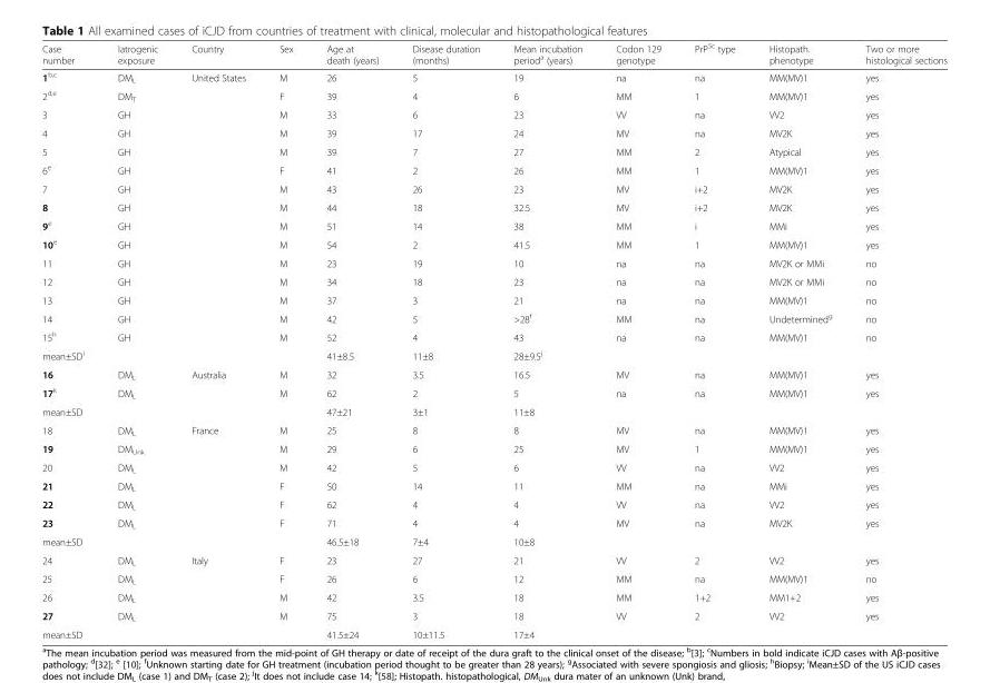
<table><thead><tr><td>Case number</td><td>Iatrogenic exposure</td><td>Country</td><td>Sex</td><td>Age at death (years)</td><td>Disease duration (months)</td><td>Mean incubation period<sup>a</sup> (years)</td><td>Codon 129 genotype</td><td>PrP<sup>Sc</sup> type</td><td>Histopath. phenotype</td><td>Two or more histological sections</td></tr></thead><tbody><tr><td>1<sup>b,c</sup></td><td>DM<sub>L</sub></td><td>United States</td><td>M</td><td>26</td><td>5</td><td>19</td><td>na</td><td>na</td><td>MM(MV)1</td><td>yes</td></tr><tr><td>2<sup>d,e</sup></td><td>DM<sub>T</sub></td><td></td><td>F</td><td>39</td><td>4</td><td>6</td><td>MM</td><td>1</td><td>MM(MV)1</td><td>yes</td></tr><tr><td>3</td><td>GH</td><td></td><td>M</td><td>33</td><td>6</td><td>23</td><td>VV</td><td>na</td><td>VV2</td><td>yes</td></tr><tr><td>4</td><td>GH</td><td></td><td>M</td><td>39</td><td>17</td><td>24</td><td>MV</td><td>na</td><td>MV2K</td><td>yes</td></tr><tr><td>5</td><td>GH</td><td></td><td>M</td><td>39</td><td>7</td><td>27</td><td>MM</td><td>2</td><td>Atypical</td><td>yes</td></tr><tr><td>6<sup>e</sup></td><td>GH</td><td></td><td>F</td><td>41</td><td>2</td><td>26</td><td>MM</td><td>1</td><td>MM(MV)1</td><td>yes</td></tr><tr><td>7</td><td>GH</td><td></td><td>M</td><td>43</td><td>26</td><td>23</td><td>MV</td><td>i+2</td><td>MV2K</td><td>yes</td></tr><tr><td>8</td><td>GH</td><td></td><td>M</td><td>44</td><td>18</td><td>32.5</td><td>MV</td><td>i+2</td><td>MV2K</td><td>yes</td></tr><tr><td>9<sup>e</sup></td><td>GH</td><td></td><td>M</td><td>51</td><td>14</td><td>38</td><td>MM</td><td>i</td><td>MMi</td><td>yes</td></tr><tr><td>10<sup>e</sup></td><td>GH</td><td></td><td>M</td><td>54</td><td>2</td><td>41.5</td><td>MM</td><td>1</td><td>MM(MV)1</td><td>yes</td></tr><tr><td>11</td><td>GH</td><td></td><td>M</td><td>23</td><td>19</td><td>10</td><td>na</td><td>na</td><td>MV2K or MMi</td><td>no</td></tr><tr><td>12</td><td>GH</td><td></td><td>M</td><td>34</td><td>18</td><td>23</td><td>na</td><td>na</td><td>MV2K or MMi</td><td>no</td></tr><tr><td>13</td><td>GH</td><td></td><td>M</td><td>37</td><td>3</td><td>21</td><td>na</td><td>na</td><td>MM(MV)1</td><td>no</td></tr><tr><td>14</td><td>GH</td><td></td><td>M</td><td>42</td><td>5</td><td>&gt;28<sup>f</sup></td><td>MM</td><td>na</td><td>Undetermined<sup>g</sup></td><td>no</td></tr><tr><td>15<sup>h</sup></td><td>GH</td><td></td><td>M</td><td>52</td><td>4</td><td>43</td><td>na</td><td>na</td><td>MM(MV)1</td><td>no</td></tr><tr><td>mean±SD<sup>i</sup></td><td></td><td></td><td></td><td>41±8.5</td><td>11±8</td><td>28±9.5<sup>j</sup></td><td></td><td></td><td></td><td></td></tr><tr><td>16</td><td>DM<sub>L</sub></td><td>Australia</td><td>M</td><td>32</td><td>3.5</td><td>16.5</td><td>MV</td><td>na</td><td>MM(MV)1</td><td>yes</td></tr><tr><td>17<sup>k</sup></td><td>DM<sub>L</sub></td><td></td><td>M</td><td>62</td><td>2</td><td>5</td><td>na</td><td>na</td><td>MM(MV)1</td><td>yes</td></tr><tr><td>mean±SD</td><td></td><td></td><td></td><td>47±21</td><td>3±1</td><td>11±8</td><td></td><td></td><td></td><td></td></tr><tr><td>18</td><td>DM<sub>L</sub></td><td>France</td><td>M</td><td>25</td><td>8</td><td>8</td><td>MV</td><td>na</td><td>MM(MV)1</td><td>yes</td></tr><tr><td>19</td><td>DM<sub>Unk</sub></td><td></td><td>M</td><td>29</td><td>6</td><td>25</td><td>MV</td><td>1</td><td>MM(MV)1</td><td>yes</td></tr><tr><td>20</td><td>DM<sub>L</sub></td><td></td><td>M</td><td>42</td><td>5</td><td>6</td><td>VV</td><td>na</td><td>VV2</td><td>yes</td></tr><tr><td>21</td><td>DM<sub>L</sub></td><td></td><td>F</td><td>50</td><td>14</td><td>11</td><td>MM</td><td>na</td><td>MMi</td><td>yes</td></tr><tr><td>22</td><td>DM<sub>L</sub></td><td></td><td>F</td><td>62</td><td>4</td><td>4</td><td>VV</td><td>na</td><td>VV2</td><td>yes</td></tr><tr><td>23</td><td>DM<sub>L</sub></td><td></td><td>F</td><td>71</td><td>4</td><td>4</td><td>MV</td><td>na</td><td>MV2K</td><td>yes</td></tr><tr><td>mean±SD</td><td></td><td></td><td></td><td>46.5±18</td><td>7±4</td><td>10±8</td><td></td><td></td><td></td><td></td></tr><tr><td>24</td><td>DM<sub>L</sub></td><td>Italy</td><td>F</td><td>23</td><td>27</td><td>21</td><td>VV</td><td>2</td><td>VV2</td><td>yes</td></tr><tr><td>25</td><td>DM<sub>L</sub></td><td></td><td>F</td><td>26</td><td>6</td><td>12</td><td>MM</td><td>na</td><td>MM(MV)1</td><td>no</td></tr><tr><td>26</td><td>DM<sub>L</sub></td><td></td><td>M</td><td>42</td><td>3.5</td><td>18</td><td>MM</td><td>1+2</td><td>MM1+2</td><td>yes</td></tr><tr><td>27</td><td>DM<sub>L</sub></td><td></td><td>M</td><td>75</td><td>3</td><td>18</td><td>VV</td><td>2</td><td>VV2</td><td>yes</td></tr><tr><td>mean±SD</td><td></td><td></td><td></td><td>41.5±24</td><td>10±11.5</td><td>17±4</td><td></td><td></td><td></td><td></td></tr></tbody></table>